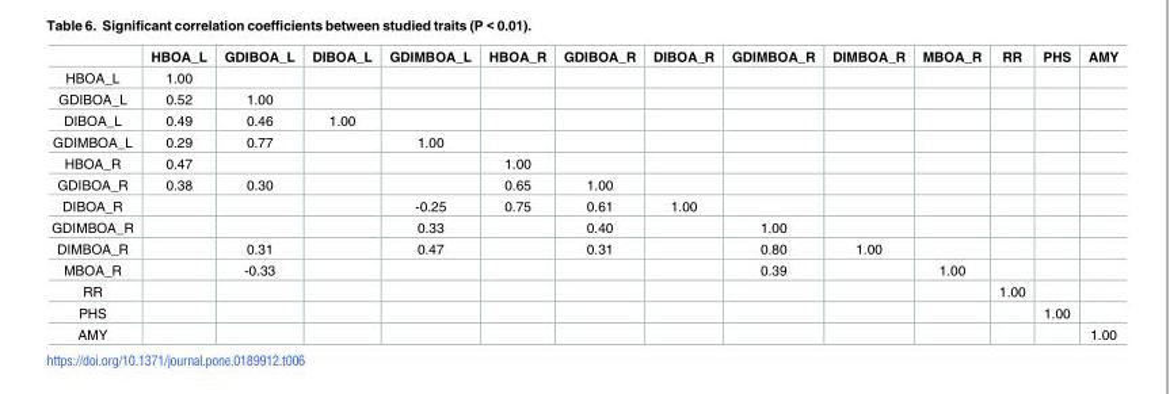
<table><thead><tr><td></td><td>HBOA_L</td><td>GDIBOA_L</td><td>DIBOA_L</td><td>GDIMBOA_L</td><td>HBOA_R</td><td>GDIBOA_R</td><td>DIBOA_R</td><td>GDIMBOA_R</td><td>DIMBOA_R</td><td>MBOA_R</td><td>RR</td><td>PHS</td><td>AMY</td></tr></thead><tbody><tr><td>HBOA_L</td><td>1.00</td><td></td><td></td><td></td><td></td><td></td><td></td><td></td><td></td><td></td><td></td><td></td><td></td></tr><tr><td>GDIBOA_L</td><td>0.52</td><td>1.00</td><td></td><td></td><td></td><td></td><td></td><td></td><td></td><td></td><td></td><td></td><td></td></tr><tr><td>DIBOA_L</td><td>0.49</td><td>0.46</td><td>1.00</td><td></td><td></td><td></td><td></td><td></td><td></td><td></td><td></td><td></td><td></td></tr><tr><td>GDIMBOA_L</td><td>0.29</td><td>0.77</td><td></td><td>1.00</td><td></td><td></td><td></td><td></td><td></td><td></td><td></td><td></td><td></td></tr><tr><td>HBOA_R</td><td>0.47</td><td></td><td></td><td></td><td>1.00</td><td></td><td></td><td></td><td></td><td></td><td></td><td></td><td></td></tr><tr><td>GDIBOA_R</td><td>0.38</td><td>0.30</td><td></td><td></td><td>0.65</td><td>1.00</td><td></td><td></td><td></td><td></td><td></td><td></td><td></td></tr><tr><td>DIBOA_R</td><td></td><td></td><td></td><td>-0.25</td><td>0.75</td><td>0.61</td><td>1.00</td><td></td><td></td><td></td><td></td><td></td><td></td></tr><tr><td>GDIMBOA_R</td><td></td><td></td><td></td><td>0.33</td><td></td><td>0.40</td><td></td><td>1.00</td><td></td><td></td><td></td><td></td><td></td></tr><tr><td>DIMBOA_R</td><td></td><td>0.31</td><td></td><td>0.47</td><td></td><td>0.31</td><td></td><td>0.80</td><td>1.00</td><td></td><td></td><td></td><td></td></tr><tr><td>MBOA_R</td><td></td><td>-0.33</td><td></td><td></td><td></td><td></td><td></td><td>0.39</td><td></td><td>1.00</td><td></td><td></td><td></td></tr><tr><td>RR</td><td></td><td></td><td></td><td></td><td></td><td></td><td></td><td></td><td></td><td></td><td>1.00</td><td></td><td></td></tr><tr><td>PHS</td><td></td><td></td><td></td><td></td><td></td><td></td><td></td><td></td><td></td><td></td><td></td><td>1.00</td><td></td></tr><tr><td>AMY</td><td></td><td></td><td></td><td></td><td></td><td></td><td></td><td></td><td></td><td></td><td></td><td></td><td>1.00</td></tr></tbody></table>